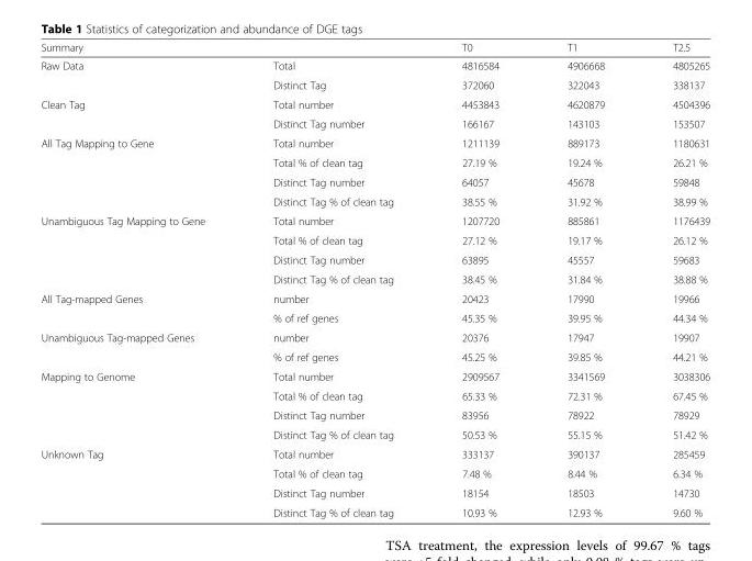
<table><thead><tr><td>Summary</td><td></td><td>T0</td><td>T1</td><td>T2.5</td></tr></thead><tbody><tr><td rowspan="2">Raw Data</td><td>Total</td><td>4816584</td><td>4906668</td><td>4805265</td></tr><tr><td>Distinct Tag</td><td>372060</td><td>322043</td><td>338137</td></tr><tr><td rowspan="2">Clean Tag</td><td>Total number</td><td>4453843</td><td>4620879</td><td>4504396</td></tr><tr><td>Distinct Tag number</td><td>166167</td><td>143103</td><td>153507</td></tr><tr><td rowspan="4">All Tag Mapping to Gene</td><td>Total number</td><td>1211139</td><td>889173</td><td>1180631</td></tr><tr><td>Total % of clean tag</td><td>27.19 %</td><td>19.24 %</td><td>26.21 %</td></tr><tr><td>Distinct Tag number</td><td>64057</td><td>45678</td><td>59848</td></tr><tr><td>Distinct Tag % of clean tag</td><td>38.55 %</td><td>31.92 %</td><td>38.99 %</td></tr><tr><td rowspan="4">Unambiguous Tag Mapping to Gene</td><td>Total number</td><td>1207720</td><td>885861</td><td>1176439</td></tr><tr><td>Total % of clean tag</td><td>27.12 %</td><td>19.17 %</td><td>26.12 %</td></tr><tr><td>Distinct Tag number</td><td>63895</td><td>45557</td><td>59683</td></tr><tr><td>Distinct Tag % of clean tag</td><td>38.45 %</td><td>31.84 %</td><td>38.88 %</td></tr><tr><td rowspan="2">All Tag-mapped Genes</td><td>number</td><td>20423</td><td>17990</td><td>19966</td></tr><tr><td>% of ref genes</td><td>45.35 %</td><td>39.95 %</td><td>44.34 %</td></tr><tr><td rowspan="2">Unambiguous Tag-mapped Genes</td><td>number</td><td>20376</td><td>17947</td><td>19907</td></tr><tr><td>% of ref genes</td><td>45.25 %</td><td>39.85 %</td><td>44.21 %</td></tr><tr><td rowspan="4">Mapping to Genome</td><td>Total number</td><td>2909567</td><td>3341569</td><td>3038306</td></tr><tr><td>Total % of clean tag</td><td>65.33 %</td><td>72.31 %</td><td>67.45 %</td></tr><tr><td>Distinct Tag number</td><td>83956</td><td>78922</td><td>78929</td></tr><tr><td>Distinct Tag % of clean tag</td><td>50.53 %</td><td>55.15 %</td><td>51.42 %</td></tr><tr><td rowspan="4">Unknown Tag</td><td>Total number</td><td>333137</td><td>390137</td><td>285459</td></tr><tr><td>Total % of clean tag</td><td>7.48 %</td><td>8.44 %</td><td>6.34 %</td></tr><tr><td>Distinct Tag number</td><td>18154</td><td>18503</td><td>14730</td></tr><tr><td>Distinct Tag % of clean tag</td><td>10.93 %</td><td>12.93 %</td><td>9.60 %</td></tr></tbody></table>